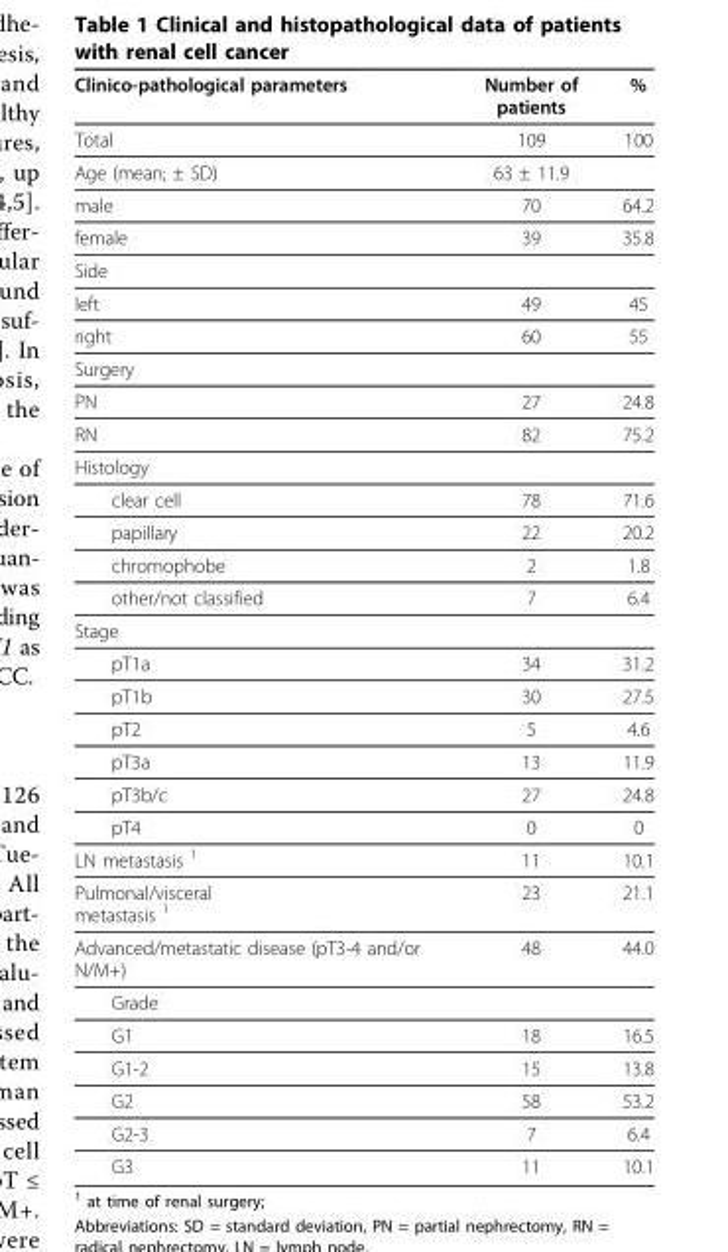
<table><thead><tr><td>Clinico-pathological parameters</td><td>Number of patients</td><td>%</td></tr></thead><tbody><tr><td>Total</td><td>109</td><td>100</td></tr><tr><td>Age (mean; ± SD)</td><td>63 ± 11.9</td><td></td></tr><tr><td>male</td><td>70</td><td>64.2</td></tr><tr><td>female</td><td>39</td><td>35.8</td></tr><tr><td colspan="3">Side</td></tr><tr><td>left</td><td>49</td><td>45</td></tr><tr><td>right</td><td>60</td><td>55</td></tr><tr><td colspan="3">Surgery</td></tr><tr><td>PN</td><td>27</td><td>24.8</td></tr><tr><td>RN</td><td>82</td><td>75.2</td></tr><tr><td colspan="3">Histology</td></tr><tr><td>clear cell</td><td>78</td><td>71.6</td></tr><tr><td>papillary</td><td>22</td><td>20.2</td></tr><tr><td>chromophobe</td><td>2</td><td>1.8</td></tr><tr><td>other/not classified</td><td>7</td><td>6.4</td></tr><tr><td colspan="3">Stage</td></tr><tr><td>pT1a</td><td>34</td><td>31.2</td></tr><tr><td>pT1b</td><td>30</td><td>27.5</td></tr><tr><td>pT2</td><td>5</td><td>4.6</td></tr><tr><td>pT3a</td><td>13</td><td>11.9</td></tr><tr><td>pT3b/c</td><td>27</td><td>24.8</td></tr><tr><td>pT4</td><td>0</td><td>0</td></tr><tr><td>LN metastasis <sup>1</sup></td><td>11</td><td>10.1</td></tr><tr><td>Pulmonal/visceral metastasis <sup>1</sup></td><td>23</td><td>21.1</td></tr><tr><td>Advanced/metastatic disease (pT3-4 and/or N/M+)</td><td>48</td><td>44.0</td></tr><tr><td colspan="3">Grade</td></tr><tr><td>G1</td><td>18</td><td>16.5</td></tr><tr><td>G1-2</td><td>15</td><td>13.8</td></tr><tr><td>G2</td><td>58</td><td>53.2</td></tr><tr><td>G2-3</td><td>7</td><td>6.4</td></tr><tr><td>G3</td><td>11</td><td>10.1</td></tr></tbody></table>